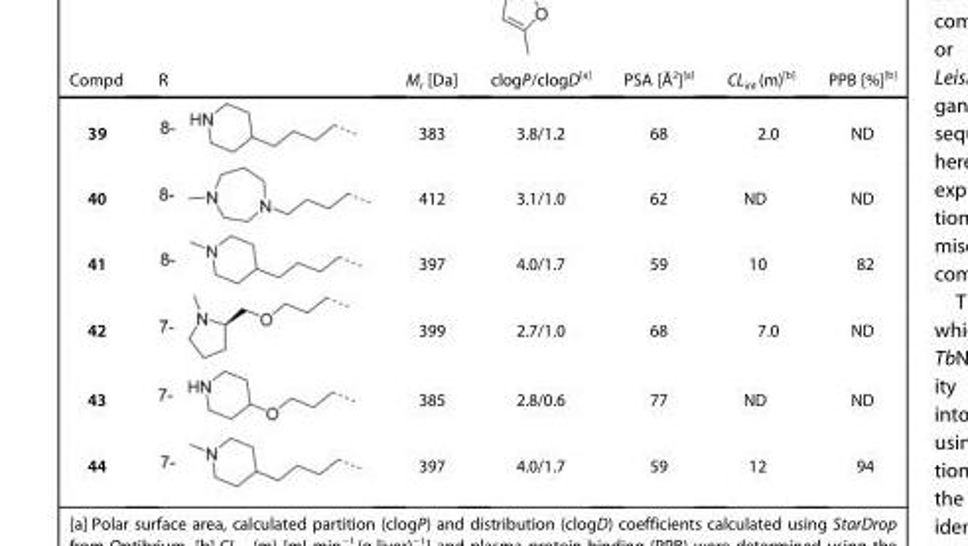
<table><thead><tr><td>Compd</td><td>R</td><td>M<sub>r</sub> [Da]</td><td>clogP/clogD<sup>[a]</sup></td><td>PSA [Å<sup>2</sup>]<sup>[a]</sup></td><td>CL<sub>int</sub>(m)<sup>[b]</sup></td><td>PPB [%]<sup>[b]</sup></td></tr></thead><tbody><tr><td>39</td><td></td><td>383</td><td>3.8/1.2</td><td>68</td><td>2.0</td><td>ND</td></tr><tr><td>40</td><td></td><td>412</td><td>3.1/1.0</td><td>62</td><td>ND</td><td>ND</td></tr><tr><td>41</td><td></td><td>397</td><td>4.0/1.7</td><td>59</td><td>10</td><td>82</td></tr><tr><td>42</td><td></td><td>399</td><td>2.7/1.0</td><td>68</td><td>7.0</td><td>ND</td></tr><tr><td>43</td><td></td><td>385</td><td>2.8/0.6</td><td>77</td><td>ND</td><td>ND</td></tr><tr><td>44</td><td></td><td>397</td><td>4.0/1.7</td><td>59</td><td>12</td><td>94</td></tr></tbody></table>